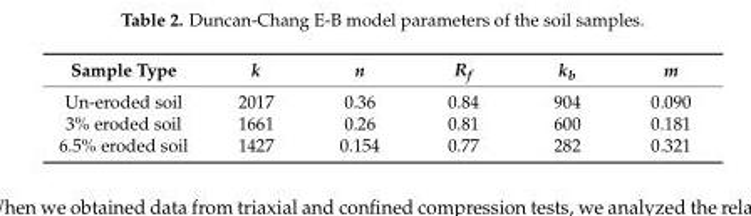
<table><thead><tr><td>Sample Type</td><td>k</td><td>n</td><td>R<sub>f</sub></td><td>k<sub>b</sub></td><td>m</td></tr></thead><tbody><tr><td>Un-eroded soil</td><td>2017</td><td>0.36</td><td>0.84</td><td>904</td><td>0.090</td></tr><tr><td>3% eroded soil</td><td>1661</td><td>0.26</td><td>0.81</td><td>600</td><td>0.181</td></tr><tr><td>6.5% eroded soil</td><td>1427</td><td>0.154</td><td>0.77</td><td>282</td><td>0.321</td></tr></tbody></table>